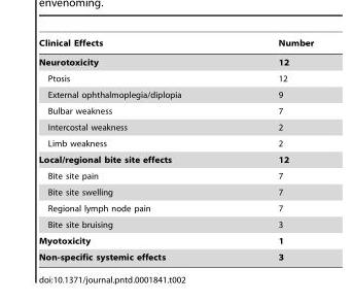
<table><thead><tr><td>Clinical Effects</td><td>Number</td></tr></thead><tbody><tr><td>Neurotoxicity</td><td>12</td></tr><tr><td>Ptosis</td><td>12</td></tr><tr><td>External ophthalmoplegia/diplopia</td><td>9</td></tr><tr><td>Bulbar weakness</td><td>7</td></tr><tr><td>Intercostal weakness</td><td>2</td></tr><tr><td>Limb weakness</td><td>2</td></tr><tr><td>Local/regional bite site effects</td><td>12</td></tr><tr><td>Bite site pain</td><td>7</td></tr><tr><td>Bite site swelling</td><td>7</td></tr><tr><td>Regional lymph node pain</td><td>7</td></tr><tr><td>Bite site bruising</td><td>3</td></tr><tr><td>Myotoxicity</td><td>1</td></tr><tr><td>Non-specific systemic effects</td><td>3</td></tr></tbody></table>